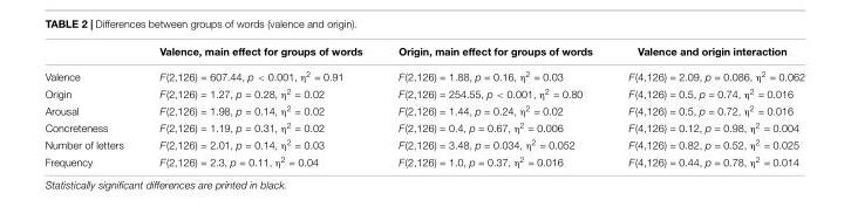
<table><thead><tr><td></td><td>Valence, main effect for groups of words</td><td>Origin, main effect for groups of words</td><td>Valence and origin interaction</td></tr></thead><tbody><tr><td>Valence</td><td>F(2,126) = 607.44, p &lt; 0.001, η<sup>2</sup> = 0.91</td><td>F(2,126) = 1.88, p = 0.16, η<sup>2</sup> = 0.03</td><td>F(4,126) = 2.09, p = 0.086, η<sup>2</sup> = 0.062</td></tr><tr><td>Origin</td><td>F(2,126) = 1.27, p = 0.28, η<sup>2</sup> = 0.02</td><td>F(2,126) = 254.55, p &lt; 0.001, η<sup>2</sup> = 0.80</td><td>F(4,126) = 0.5, p = 0.74, η<sup>2</sup> = 0.016</td></tr><tr><td>Arousal</td><td>F(2,126) = 1.98, p = 0.14, η<sup>2</sup> = 0.02</td><td>F(2,126) = 1.44, p = 0.24, η<sup>2</sup> = 0.02</td><td>F(4,126) = 0.5, p = 0.72, η<sup>2</sup> = 0.016</td></tr><tr><td>Concreteness</td><td>F(2,126) = 1.19, p = 0.31, η<sup>2</sup> = 0.02</td><td>F(2,126) = 0.4, p = 0.67, η<sup>2</sup> = 0.006</td><td>F(4,126) = 0.12, p = 0.98, η<sup>2</sup> = 0.004</td></tr><tr><td>Number of letters</td><td>F(2,126) = 2.01, p = 0.14, η<sup>2</sup> = 0.03</td><td>F(2,126) = 3.48, p = 0.034, η<sup>2</sup> = 0.052</td><td>F(4,126) = 0.82, p = 0.52, η<sup>2</sup> = 0.025</td></tr><tr><td>Frequency</td><td>F(2,126) = 2.3, p = 0.11, η<sup>2</sup> = 0.04</td><td>F(2,126) = 1.0, p = 0.37, η<sup>2</sup> = 0.016</td><td>F(4,126) = 0.44, p = 0.78, η<sup>2</sup> = 0.014</td></tr></tbody></table>